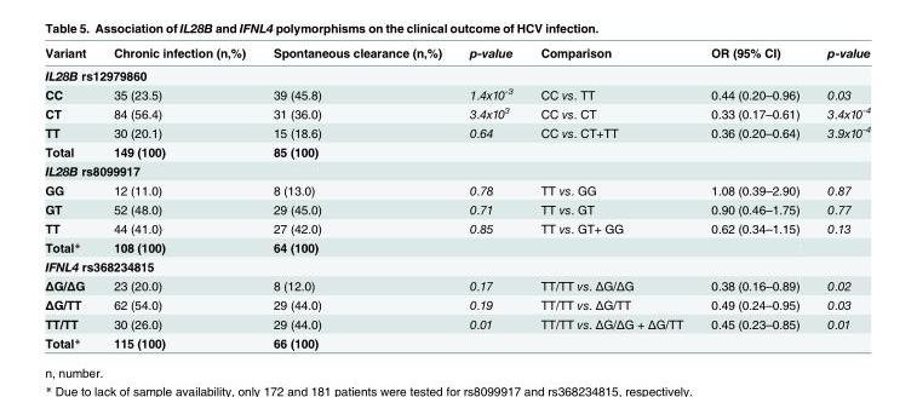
<table><thead><tr><td>Variant</td><td>Chronic infection (n,%)</td><td>Spontaneous clearance (n,%)</td><td>p-value</td><td>Comparison</td><td>OR (95% CI)</td><td>p-value</td></tr></thead><tbody><tr><td colspan="7">IL28B rs12979860</td></tr><tr><td>CC</td><td>35 (23.5)</td><td>39 (45.8)</td><td>1.4x10<sup>-3</sup></td><td>CC vs. TT</td><td>0.44 (0.20–0.96)</td><td>0.03</td></tr><tr><td>CT</td><td>84 (56.4)</td><td>31 (36.0)</td><td>3.4x10<sup>3</sup></td><td>CC vs. CT</td><td>0.33 (0.17–0.61)</td><td>3.4x10<sup>-4</sup></td></tr><tr><td>TT</td><td>30 (20.1)</td><td>15 (18.6)</td><td>0.64</td><td>CC vs. CT+TT</td><td>0.36 (0.20–0.64)</td><td>3.9x10<sup>-4</sup></td></tr><tr><td>Total</td><td>149 (100)</td><td>85 (100)</td><td></td><td></td><td></td><td></td></tr><tr><td colspan="7">IL28B rs8099917</td></tr><tr><td>GG</td><td>12 (11.0)</td><td>8 (13.0)</td><td>0.78</td><td>TT vs. GG</td><td>1.08 (0.39–2.90)</td><td>0.87</td></tr><tr><td>GT</td><td>52 (48.0)</td><td>29 (45.0)</td><td>0.71</td><td>TT vs. GT</td><td>0.90 (0.46–1.75)</td><td>0.77</td></tr><tr><td>TT</td><td>44 (41.0)</td><td>27 (42.0)</td><td>0.85</td><td>TT vs. GT+ GG</td><td>0.62 (0.34–1.15)</td><td>0.13</td></tr><tr><td>Total*</td><td>108 (100)</td><td>64 (100)</td><td></td><td></td><td></td><td></td></tr><tr><td colspan="7">IFNL4 rs368234815</td></tr><tr><td>ΔG/ΔG</td><td>23 (20.0)</td><td>8 (12.0)</td><td>0.17</td><td>TT/TT vs. ΔG/ΔG</td><td>0.38 (0.16–0.89)</td><td>0.02</td></tr><tr><td>ΔG/TT</td><td>62 (54.0)</td><td>29 (44.0)</td><td>0.19</td><td>TT/TT vs. ΔG/TT</td><td>0.49 (0.24–0.95)</td><td>0.03</td></tr><tr><td>TT/TT</td><td>30 (26.0)</td><td>29 (44.0)</td><td>0.01</td><td>TT/TT vs. ΔG/ΔG + ΔG/TT</td><td>0.45 (0.23–0.85)</td><td>0.01</td></tr><tr><td>Total*</td><td>115 (100)</td><td>66 (100)</td><td></td><td></td><td></td><td></td></tr></tbody></table>